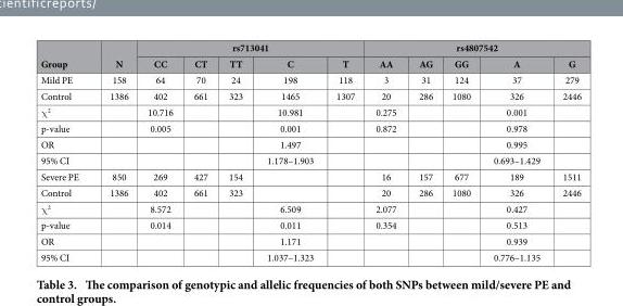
<table><thead><tr><td rowspan="2">Group</td><td rowspan="2">N</td><td colspan="5">rs713041</td><td colspan="5">rs4807542</td></tr><tr><td>CC</td><td>CT</td><td>TT</td><td>C</td><td>T</td><td>AA</td><td>AG</td><td>GG</td><td>A</td><td>G</td></tr></thead><tbody><tr><td>Mild PE</td><td>158</td><td>64</td><td>70</td><td>24</td><td>198</td><td>118</td><td>3</td><td>31</td><td>124</td><td>37</td><td>279</td></tr><tr><td>Control</td><td>1386</td><td>402</td><td>661</td><td>323</td><td>1465</td><td>1307</td><td>20</td><td>286</td><td>1080</td><td>326</td><td>2446</td></tr><tr><td>χ <sup>2</sup></td><td></td><td>10.716</td><td></td><td></td><td>10.981</td><td></td><td>0.275</td><td></td><td></td><td>0.001</td><td></td></tr><tr><td>p-value</td><td></td><td>0.005</td><td></td><td></td><td>0.001</td><td></td><td>0.872</td><td></td><td></td><td>0.978</td><td></td></tr><tr><td>OR</td><td></td><td></td><td></td><td></td><td>1.497</td><td></td><td></td><td></td><td></td><td>0.995</td><td></td></tr><tr><td>95% CI</td><td></td><td></td><td></td><td></td><td>1.178–1.903</td><td></td><td></td><td></td><td></td><td>0.693–1.429</td><td></td></tr><tr><td>Severe PE</td><td>850</td><td>269</td><td>427</td><td>154</td><td></td><td></td><td>16</td><td>157</td><td>677</td><td>189</td><td>1511</td></tr><tr><td>Control</td><td>1386</td><td>402</td><td>661</td><td>323</td><td></td><td></td><td>20</td><td>286</td><td>1080</td><td>326</td><td>2446</td></tr><tr><td>χ <sup>2</sup></td><td></td><td>8.572</td><td></td><td></td><td>6.509</td><td></td><td>2.077</td><td></td><td></td><td>0.427</td><td></td></tr><tr><td>p-value</td><td></td><td>0.014</td><td></td><td></td><td>0.011</td><td></td><td>0.354</td><td></td><td></td><td>0.513</td><td></td></tr><tr><td>OR</td><td></td><td></td><td></td><td></td><td>1.171</td><td></td><td></td><td></td><td></td><td>0.939</td><td></td></tr><tr><td>95% CI</td><td></td><td></td><td></td><td></td><td>1.037–1.323</td><td></td><td></td><td></td><td></td><td>0.776–1.135</td><td></td></tr></tbody></table>